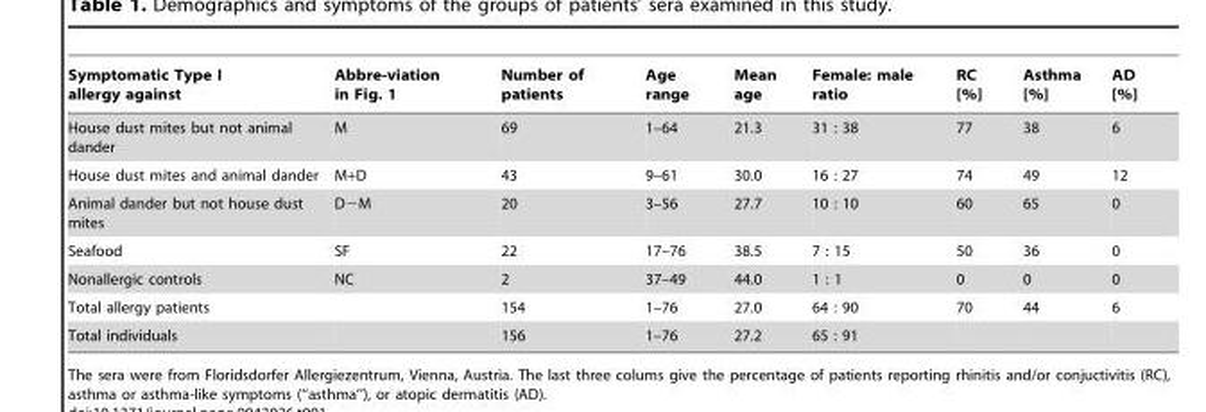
<table><thead><tr><td>Symptomatic Type I allergy against</td><td>Abbre-viation in Fig. 1</td><td>Number of patients</td><td>Age range</td><td>Mean age</td><td>Female: male ratio</td><td>RC [%]</td><td>Asthma [%]</td><td>AD [%]</td></tr></thead><tbody><tr><td>House dust mites but not animal dander</td><td>M</td><td>69</td><td>1–64</td><td>21.3</td><td>31 : 38</td><td>77</td><td>38</td><td>6</td></tr><tr><td>House dust mites and animal dander</td><td>M+D</td><td>43</td><td>9–61</td><td>30.0</td><td>16 : 27</td><td>74</td><td>49</td><td>12</td></tr><tr><td>Animal dander but not house dust mites</td><td>D−M</td><td>20</td><td>3–56</td><td>27.7</td><td>10 : 10</td><td>60</td><td>65</td><td>0</td></tr><tr><td>Seafood</td><td>SF</td><td>22</td><td>17–76</td><td>38.5</td><td>7 : 15</td><td>50</td><td>36</td><td>0</td></tr><tr><td>Nonallergic controls</td><td>NC</td><td>2</td><td>37–49</td><td>44.0</td><td>1 : 1</td><td>0</td><td>0</td><td>0</td></tr><tr><td>Total allergy patients</td><td></td><td>154</td><td>1–76</td><td>27.0</td><td>64 : 90</td><td>70</td><td>44</td><td>6</td></tr><tr><td>Total individuals</td><td></td><td>156</td><td>1–76</td><td>27.2</td><td>65 : 91</td><td></td><td></td><td></td></tr></tbody></table>